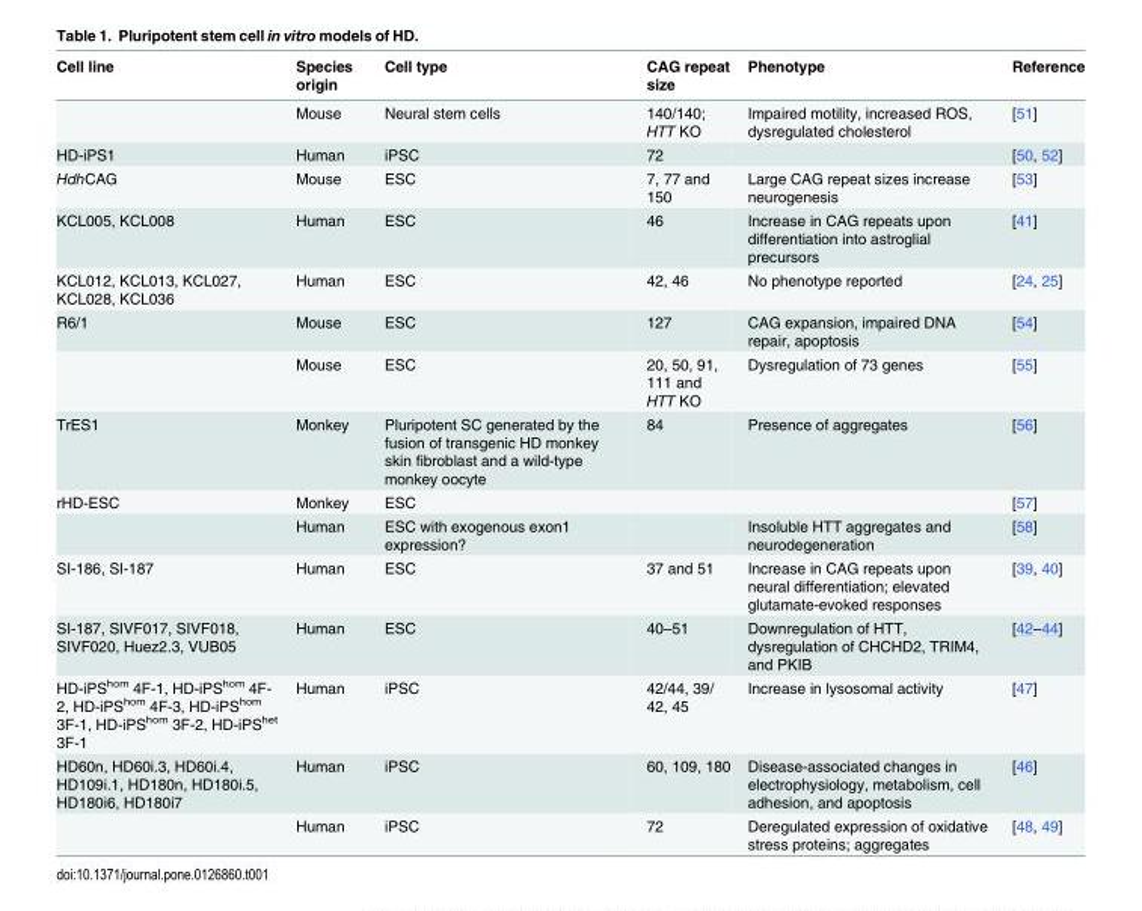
<table><thead><tr><td>Cell line</td><td>Species origin</td><td>Cell type</td><td>CAG repeat size</td><td>Phenotype</td><td>Reference</td></tr></thead><tbody><tr><td></td><td>Mouse</td><td>Neural stem cells</td><td>140/140; HTT KO</td><td>Impaired motility, increased ROS, dysregulated cholesterol</td><td>[51]</td></tr><tr><td>HD-iPS1</td><td>Human</td><td>iPSC</td><td>72</td><td></td><td>[50, 52]</td></tr><tr><td>HdhCAG</td><td>Mouse</td><td>ESC</td><td>7, 77 and 150</td><td>Large CAG repeat sizes increase neurogenesis</td><td>[53]</td></tr><tr><td>KCL005, KCL008</td><td>Human</td><td>ESC</td><td>46</td><td>Increase in CAG repeats upon differentiation into astroglial precursors</td><td>[41]</td></tr><tr><td>KCL012, KCL013, KCL027, KCL028, KCL036</td><td>Human</td><td>ESC</td><td>42, 46</td><td>No phenotype reported</td><td>[24, 25]</td></tr><tr><td rowspan="2">R6/1</td><td>Mouse</td><td>ESC</td><td>127</td><td>CAG expansion, impaired DNA repair, apoptosis</td><td>[54]</td></tr><tr><td>Mouse</td><td>ESC</td><td>20, 50, 91, 111 and HTT KO</td><td>Dysregulation of 73 genes</td><td>[55]</td></tr><tr><td>TrES1</td><td>Monkey</td><td>Pluripotent SC generated by the fusion of transgenic HD monkey skin fibroblast and a wild-type monkey oocyte</td><td>84</td><td>Presence of aggregates</td><td>[56]</td></tr><tr><td rowspan="2">rHD-ESC</td><td>Monkey</td><td>ESC</td><td></td><td></td><td>[57]</td></tr><tr><td>Human</td><td>ESC with exogenous exon1 expression?</td><td></td><td>Insoluble HTT aggregates and neurodegeneration</td><td>[58]</td></tr><tr><td>SI-186, SI-187</td><td>Human</td><td>ESC</td><td>37 and 51</td><td>Increase in CAG repeats upon neural differentiation; elevated glutamate-evoked responses</td><td>[39, 40]</td></tr><tr><td>SI-187, SIVF017, SIVF018, SIVF020, Huez2.3, VUB05</td><td>Human</td><td>ESC</td><td>40–51</td><td>Downregulation of HTT, dysregulation of CHCHD2, TRIM4, and PKIB</td><td>[42–44]</td></tr><tr><td>HD-iPS<sup>hom</sup> 4F-1, HD-iPS<sup>hom</sup> 4F- 2, HD-iPS<sup>hom</sup> 4F-3, HD-iPS<sup>hom</sup> 3F-1, HD-iPS<sup>hom</sup> 3F-2, HD-iPS<sup>het</sup> 3F-1</td><td>Human</td><td>iPSC</td><td>42/44, 39/ 42, 45</td><td>Increase in lysosomal activity</td><td>[47]</td></tr><tr><td rowspan="2">HD60n, HD60i.3, HD60i.4, HD109i.1, HD180n, HD180i.5, HD180i6, HD180i7</td><td>Human</td><td>iPSC</td><td>60, 109, 180</td><td>Disease-associated changes in electrophysiology, metabolism, cell adhesion, and apoptosis</td><td>[46]</td></tr><tr><td>Human</td><td>iPSC</td><td>72</td><td>Deregulated expression of oxidative stress proteins; aggregates</td><td>[48, 49]</td></tr></tbody></table>